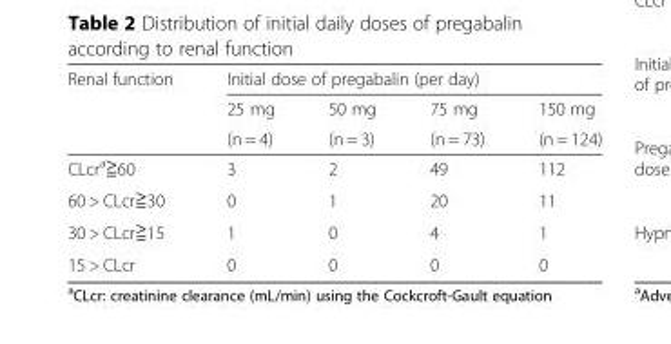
<table><thead><tr><td rowspan="3">Renal function</td><td colspan="4">Initial dose of pregabalin (per day)</td></tr><tr><td rowspan="2">25 mg (n = 4)</td><td rowspan="2">50 mg (n = 3)</td><td rowspan="2">75 mg (n = 73)</td><td rowspan="2">150 mg (n = 124)</td></tr><tr></tr></thead><tbody><tr><td>CLcr<sup>a</sup>≧60</td><td>3</td><td>2</td><td>49</td><td>112</td></tr><tr><td>60 &gt; CLcr≧30</td><td>0</td><td>1</td><td>20</td><td>11</td></tr><tr><td>30 &gt; CLcr≧15</td><td>1</td><td>0</td><td>4</td><td>1</td></tr><tr><td>15 &gt; CLcr</td><td>0</td><td>0</td><td>0</td><td>0</td></tr></tbody></table>